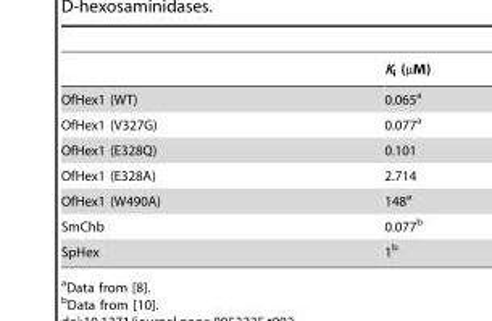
<table><thead><tr><td></td><td>K<sub>i</sub> (µM)</td></tr></thead><tbody><tr><td>OfHex1 (WT)</td><td>0.065<sup>a</sup></td></tr><tr><td>OfHex1 (V327G)</td><td>0.077<sup>a</sup></td></tr><tr><td>OfHex1 (E328Q)</td><td>0.101</td></tr><tr><td>OfHex1 (E328A)</td><td>2.714</td></tr><tr><td>OfHex1 (W490A)</td><td>148<sup>a</sup></td></tr><tr><td>SmChb</td><td>0.077<sup>b</sup></td></tr><tr><td>SpHex</td><td>1<sup>b</sup></td></tr></tbody></table>